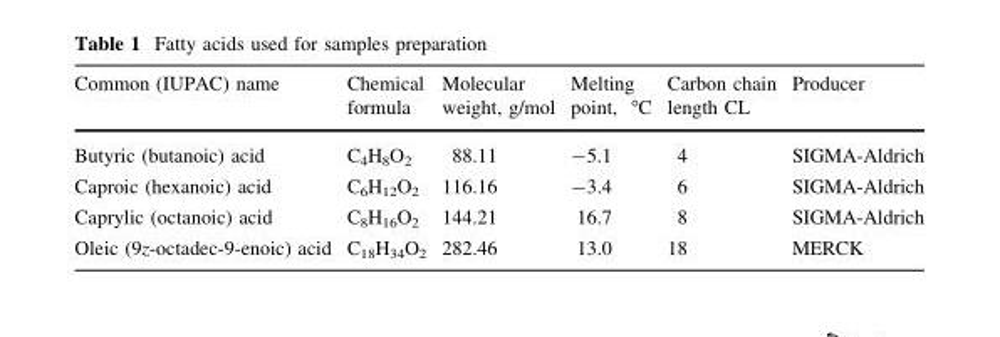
<table><thead><tr><td>Common (IUPAC) name</td><td>Chemical formula</td><td>Molecular weight, g/mol</td><td>Melting point, °C</td><td>Carbon chain length CL</td><td>Producer</td></tr></thead><tbody><tr><td>Butyric (butanoic) acid</td><td>C<sub>4</sub>H<sub>8</sub>O<sub>2</sub></td><td>88.11</td><td>-5.1</td><td>4</td><td>SIGMA-Aldrich</td></tr><tr><td>Caproic (hexanoic) acid</td><td>C<sub>6</sub>H<sub>12</sub>O<sub>2</sub></td><td>116.16</td><td>-3.4</td><td>6</td><td>SIGMA-Aldrich</td></tr><tr><td>Caprylic (octanoic) acid</td><td>C<sub>8</sub>H<sub>16</sub>O<sub>2</sub></td><td>144.21</td><td>16.7</td><td>8</td><td>SIGMA-Aldrich</td></tr><tr><td>Oleic (9z-octadec-9-enoic) acid</td><td>C<sub>18</sub>H<sub>34</sub>O<sub>2</sub></td><td>282.46</td><td>13.0</td><td>18</td><td>MERCK</td></tr></tbody></table>